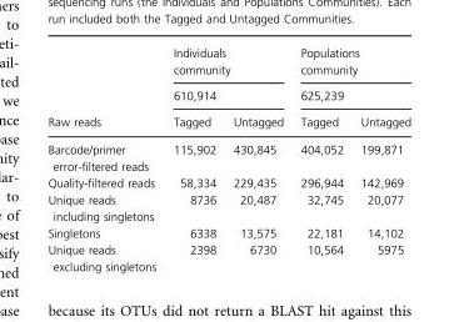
<table><thead><tr><td rowspan="3">Raw reads</td><td rowspan="2" colspan="2">Individuals community 610,914</td><td rowspan="2" colspan="2">Populations community 625,239</td></tr><tr></tr><tr><td>Tagged</td><td>Untagged</td><td>Tagged</td><td>Untagged</td></tr></thead><tbody><tr><td>Barcode/primer error-filtered reads</td><td>115,902</td><td>430,845</td><td>404,052</td><td>199,871</td></tr><tr><td>Quality-filtered reads</td><td>58,334</td><td>229,435</td><td>296,944</td><td>142,969</td></tr><tr><td>Unique reads including singletons</td><td>8736</td><td>20,487</td><td>32,745</td><td>20,077</td></tr><tr><td>Singletons</td><td>6338</td><td>13,575</td><td>22,181</td><td>14,102</td></tr><tr><td>Unique reads excluding singletons</td><td>2398</td><td>6730</td><td>10,564</td><td>5975</td></tr></tbody></table>